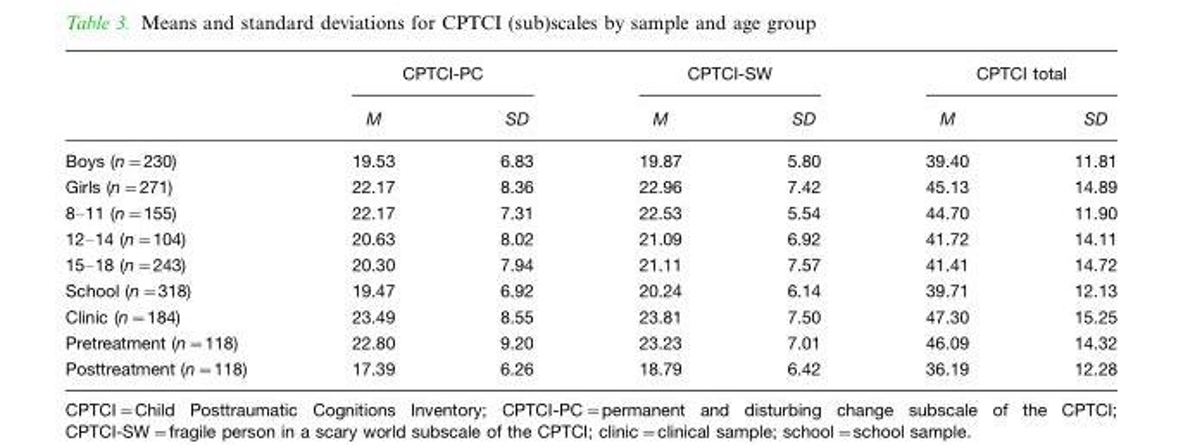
<table><thead><tr><td rowspan="2"></td><td colspan="2">CPTCI-PC</td><td colspan="2">CPTCI-SW</td><td colspan="2">CPTCI total</td></tr><tr><td>M</td><td>SD</td><td>M</td><td>SD</td><td>M</td><td>SD</td></tr></thead><tbody><tr><td>Boys (n=230)</td><td>19.53</td><td>6.83</td><td>19.87</td><td>5.80</td><td>39.40</td><td>11.81</td></tr><tr><td>Girls (n=271)</td><td>22.17</td><td>8.36</td><td>22.96</td><td>7.42</td><td>45.13</td><td>14.89</td></tr><tr><td>8–11 (n=155)</td><td>22.17</td><td>7.31</td><td>22.53</td><td>5.54</td><td>44.70</td><td>11.90</td></tr><tr><td>12–14 (n=104)</td><td>20.63</td><td>8.02</td><td>21.09</td><td>6.92</td><td>41.72</td><td>14.11</td></tr><tr><td>15–18 (n=243)</td><td>20.30</td><td>7.94</td><td>21.11</td><td>7.57</td><td>41.41</td><td>14.72</td></tr><tr><td>School (n=318)</td><td>19.47</td><td>6.92</td><td>20.24</td><td>6.14</td><td>39.71</td><td>12.13</td></tr><tr><td>Clinic (n=184)</td><td>23.49</td><td>8.55</td><td>23.81</td><td>7.50</td><td>47.30</td><td>15.25</td></tr><tr><td>Pretreatment (n=118)</td><td>22.80</td><td>9.20</td><td>23.23</td><td>7.01</td><td>46.09</td><td>14.32</td></tr><tr><td>Posttreatment (n=118)</td><td>17.39</td><td>6.26</td><td>18.79</td><td>6.42</td><td>36.19</td><td>12.28</td></tr></tbody></table>